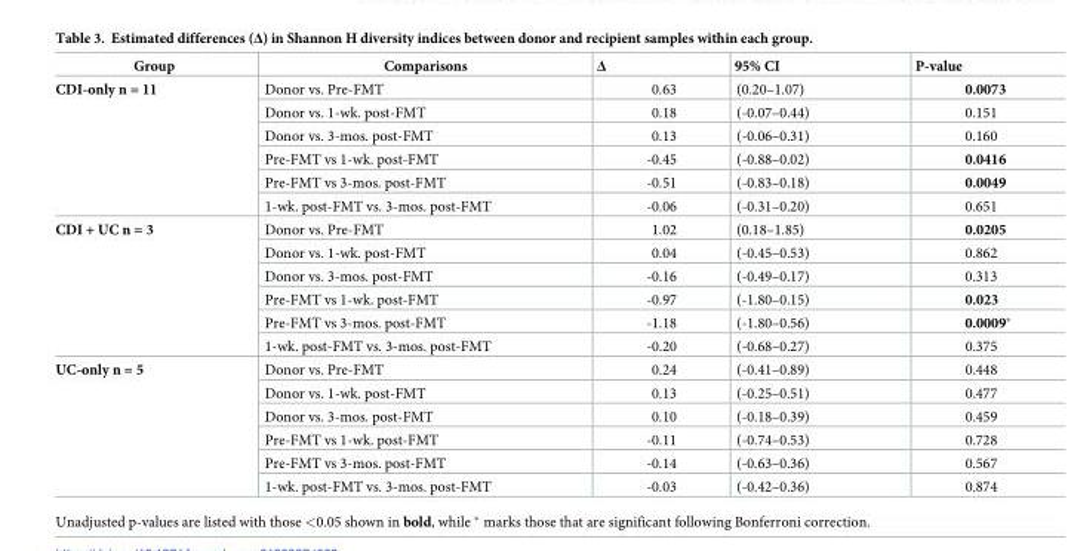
<table><thead><tr><td>Group</td><td>Comparisons</td><td>Δ</td><td>95% CI</td><td>P-value</td></tr></thead><tbody><tr><td rowspan="6">CDI-only n = 11</td><td>Donor vs. Pre-FMT</td><td>0.63</td><td>(0.20–1.07)</td><td>0.0073</td></tr><tr><td>Donor vs. 1-wk. post-FMT</td><td>0.18</td><td>(-0.07–0.44)</td><td>0.151</td></tr><tr><td>Donor vs. 3-mos. post-FMT</td><td>0.13</td><td>(-0.06–0.31)</td><td>0.160</td></tr><tr><td>Pre-FMT vs 1-wk. post-FMT</td><td>-0.45</td><td>(-0.88–0.02)</td><td>0.0416</td></tr><tr><td>Pre-FMT vs 3-mos. post-FMT</td><td>-0.51</td><td>(-0.83–0.18)</td><td>0.0049</td></tr><tr><td>1-wk. post-FMT vs. 3-mos. post-FMT</td><td>-0.06</td><td>(-0.31–0.20)</td><td>0.651</td></tr><tr><td rowspan="6">CDI + UC n = 3</td><td>Donor vs. Pre-FMT</td><td>1.02</td><td>(0.18–1.85)</td><td>0.0205</td></tr><tr><td>Donor vs. 1-wk. post-FMT</td><td>0.04</td><td>(-0.45–0.53)</td><td>0.862</td></tr><tr><td>Donor vs. 3-mos. post-FMT</td><td>-0.16</td><td>(-0.49–0.17)</td><td>0.313</td></tr><tr><td>Pre-FMT vs 1-wk. post-FMT</td><td>-0.97</td><td>(-1.80–0.15)</td><td>0.023</td></tr><tr><td>Pre-FMT vs 3-mos. post-FMT</td><td>-1.18</td><td>(-1.80–0.56)</td><td>0.0009*</td></tr><tr><td>1-wk. post-FMT vs. 3-mos. post-FMT</td><td>-0.20</td><td>(-0.68–0.27)</td><td>0.375</td></tr><tr><td rowspan="6">UC-only n = 5</td><td>Donor vs. Pre-FMT</td><td>0.24</td><td>(-0.41–0.89)</td><td>0.448</td></tr><tr><td>Donor vs. 1-wk. post-FMT</td><td>0.13</td><td>(-0.25–0.51)</td><td>0.477</td></tr><tr><td>Donor vs. 3-mos. post-FMT</td><td>0.10</td><td>(-0.18–0.39)</td><td>0.459</td></tr><tr><td>Pre-FMT vs 1-wk. post-FMT</td><td>-0.11</td><td>(-0.74–0.53)</td><td>0.728</td></tr><tr><td>Pre-FMT vs 3-mos. post-FMT</td><td>-0.14</td><td>(-0.63–0.36)</td><td>0.567</td></tr><tr><td>1-wk. post-FMT vs. 3-mos. post-FMT</td><td>-0.03</td><td>(-0.42–0.36)</td><td>0.874</td></tr></tbody></table>